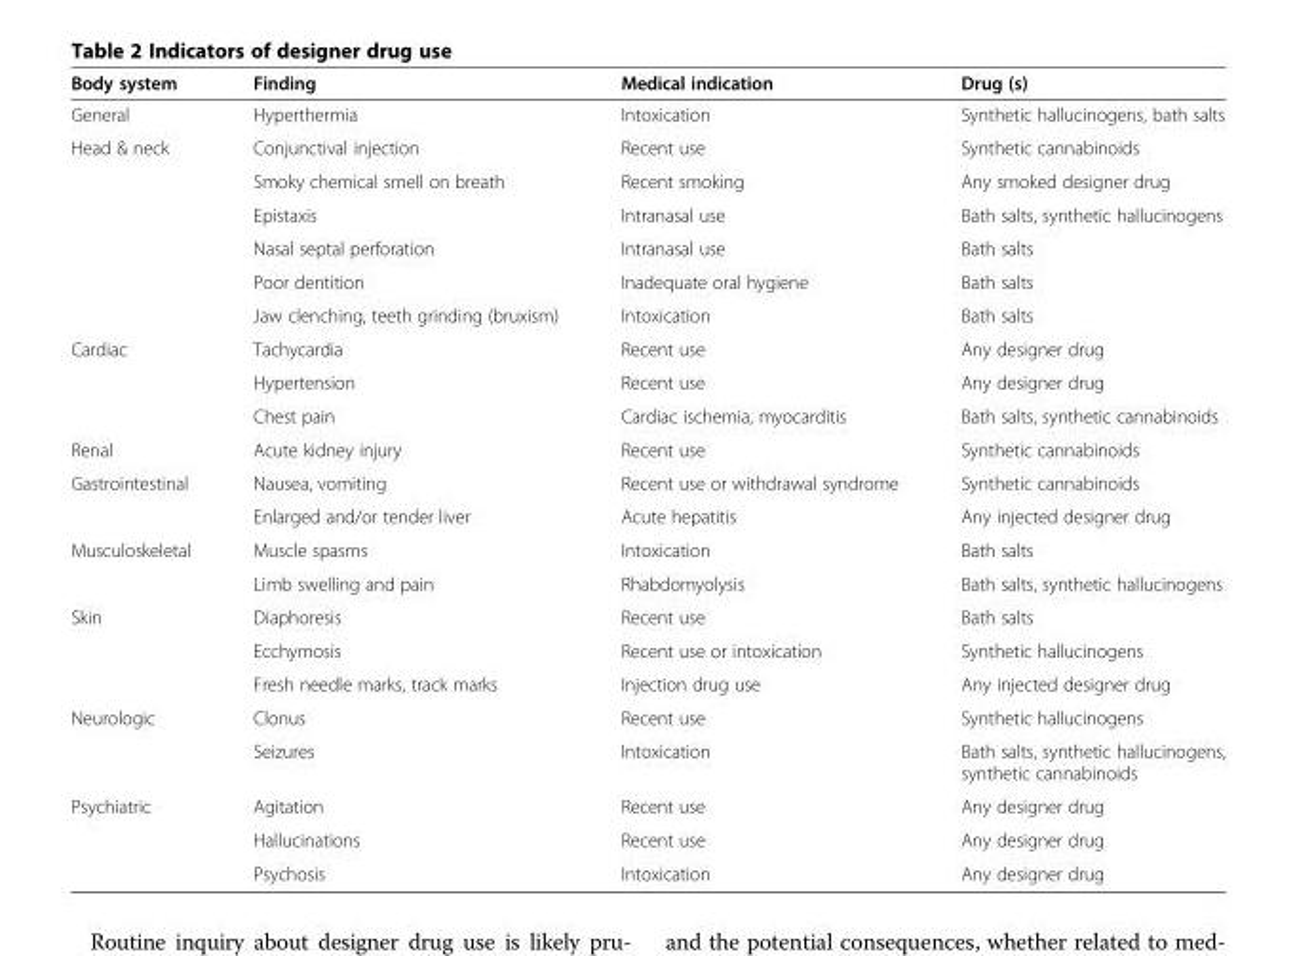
<table><thead><tr><td>Body system</td><td>Finding</td><td>Medical indication</td><td>Drug (s)</td></tr></thead><tbody><tr><td>General</td><td>Hyperthermia</td><td>Intoxication</td><td>Synthetic hallucinogens, bath salts</td></tr><tr><td rowspan="6">Head &amp; neck</td><td>Conjunctival injection</td><td>Recent use</td><td>Synthetic cannabinoids</td></tr><tr><td>Smoky chemical smell on breath</td><td>Recent smoking</td><td>Any smoked designer drug</td></tr><tr><td>Epistaxis</td><td>Intranasal use</td><td>Bath salts, synthetic hallucinogens</td></tr><tr><td>Nasal septal perforation</td><td>Intranasal use</td><td>Bath salts</td></tr><tr><td>Poor dentition</td><td>Inadequate oral hygiene</td><td>Bath salts</td></tr><tr><td>Jaw clenching, teeth grinding (bruxism)</td><td>Intoxication</td><td>Bath salts</td></tr><tr><td rowspan="3">Cardiac</td><td>Tachycardia</td><td>Recent use</td><td>Any designer drug</td></tr><tr><td>Hypertension</td><td>Recent use</td><td>Any designer drug</td></tr><tr><td>Chest pain</td><td>Cardiac ischemia, myocarditis</td><td>Bath salts, synthetic cannabinoids</td></tr><tr><td>Renal</td><td>Acute kidney injury</td><td>Recent use</td><td>Synthetic cannabinoids</td></tr><tr><td rowspan="2">Gastrointestinal</td><td>Nausea, vomiting</td><td>Recent use or withdrawal syndrome</td><td>Synthetic cannabinoids</td></tr><tr><td>Enlarged and/or tender liver</td><td>Acute hepatitis</td><td>Any injected designer drug</td></tr><tr><td rowspan="2">Musculoskeletal</td><td>Muscle spasms</td><td>Intoxication</td><td>Bath salts</td></tr><tr><td>Limb swelling and pain</td><td>Rhabdomyolysis</td><td>Bath salts, synthetic hallucinogens</td></tr><tr><td rowspan="3">Skin</td><td>Diaphoresis</td><td>Recent use</td><td>Bath salts</td></tr><tr><td>Ecchymosis</td><td>Recent use or intoxication</td><td>Synthetic hallucinogens</td></tr><tr><td>Fresh needle marks, track marks</td><td>Injection drug use</td><td>Any injected designer drug</td></tr><tr><td rowspan="2">Neurologic</td><td>Clonus</td><td>Recent use</td><td>Synthetic hallucinogens</td></tr><tr><td>Seizures</td><td>Intoxication</td><td>Bath salts, synthetic hallucinogens, synthetic cannabinoids</td></tr><tr><td rowspan="3">Psychiatric</td><td>Agitation</td><td>Recent use</td><td>Any designer drug</td></tr><tr><td>Hallucinations</td><td>Recent use</td><td>Any designer drug</td></tr><tr><td>Psychosis</td><td>Intoxication</td><td>Any designer drug</td></tr></tbody></table>